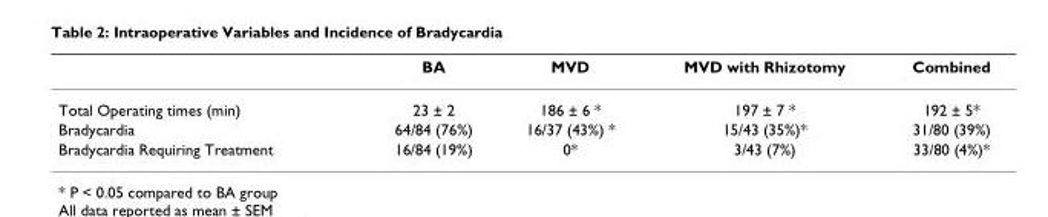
<table><thead><tr><td></td><td>BA</td><td>MVD</td><td>MVD with Rhizotomy</td><td>Combined</td></tr></thead><tbody><tr><td>Total Operating times (min)</td><td>23 ± 2</td><td>186 ± 6 *</td><td>197 ± 7 *</td><td>192 ± 5*</td></tr><tr><td>Bradycardia</td><td>64/84 (76%)</td><td>16/37 (43%) *</td><td>15/43 (35%)*</td><td>31/80 (39%)</td></tr><tr><td>Bradycardia Requiring Treatment</td><td>16/84 (19%)</td><td>0*</td><td>3/43 (7%)</td><td>33/80 (4%)*</td></tr></tbody></table>